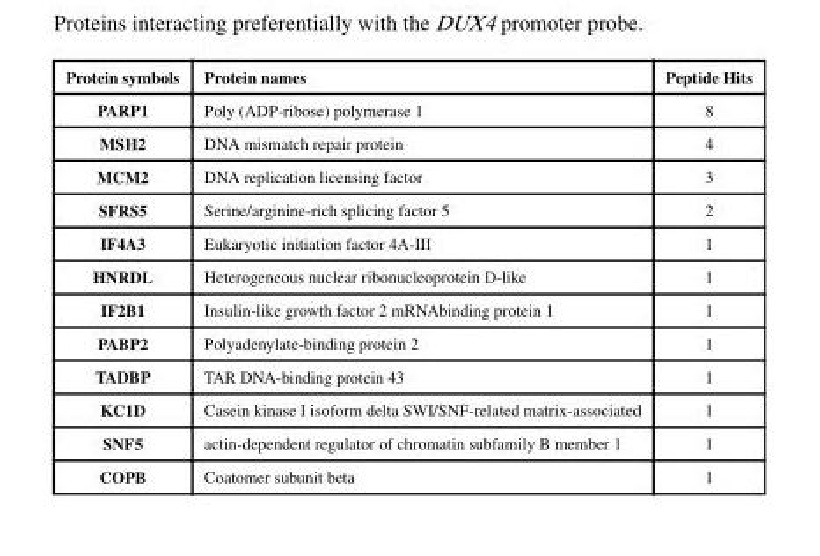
<table><thead><tr><td>Protein symbols</td><td>Protein names</td><td>Peptide Hits</td></tr></thead><tbody><tr><td>PARP1</td><td>Poly (ADP-ribose) polymerase 1</td><td>8</td></tr><tr><td>MSH2</td><td>DNA mismatch repair protein</td><td>4</td></tr><tr><td>MCM2</td><td>DNA replication licensing factor</td><td>3</td></tr><tr><td>SFRS5</td><td>Serine/arginine-rich splicing factor 5</td><td>2</td></tr><tr><td>IF4A3</td><td>Eukaryotic initiation factor 4A-III</td><td>1</td></tr><tr><td>HNRDL</td><td>Heterogeneous nuclear ribonucleoprotein D-like</td><td>1</td></tr><tr><td>IF2B1</td><td>Insulin-like growth factor 2 mRNAbinding protein 1</td><td>1</td></tr><tr><td>PABP2</td><td>Polyadenylate-binding protein 2</td><td>1</td></tr><tr><td>TADBP</td><td>TAR DNA-binding protein 43</td><td>1</td></tr><tr><td>KC1D</td><td>Casein kinase I isoform delta SWI/SNF-related matrix-associated</td><td>1</td></tr><tr><td>SNF5</td><td>actin-dependent regulator of chromatin subfamily B member 1</td><td>1</td></tr><tr><td>COPB</td><td>Coatomer subunit beta</td><td>1</td></tr></tbody></table>